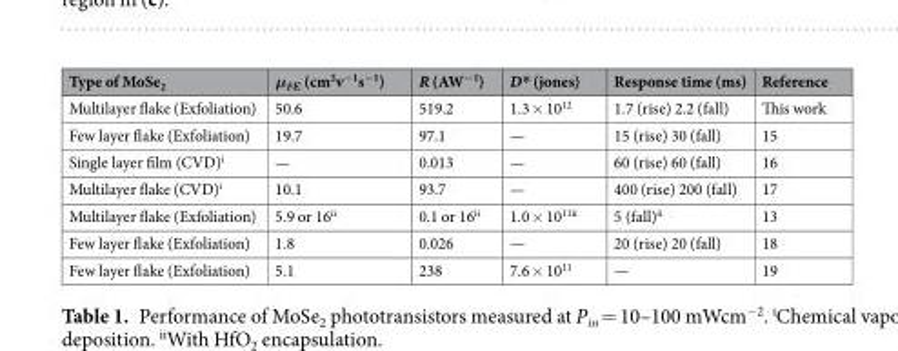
<table><thead><tr><td>Type of MoSe<sub>2</sub></td><td>μ<sub>FΕ</sub> (cm<sup>2</sup>v<sup>−1</sup>s<sup>−1</sup>)</td><td>R (AW<sup>−1</sup>)</td><td>D* (jones)</td><td>Response time (ms)</td><td>Reference</td></tr></thead><tbody><tr><td>Multilayer flake (Exfoliation)</td><td>50.6</td><td>519.2</td><td>1.3 × 10<sup>12</sup></td><td>1.7 (rise) 2.2 (fall)</td><td>This work</td></tr><tr><td>Few layer flake (Exfoliation)</td><td>19.7</td><td>97.1</td><td>—</td><td>15 (rise) 30 (fall)</td><td>15</td></tr><tr><td>Single layer film (CVD)<sup>i</sup></td><td>—</td><td>0.013</td><td>—</td><td>60 (rise) 60 (fall)</td><td>16</td></tr><tr><td>Multilayer flake (CVD)<sup>i</sup></td><td>10.1</td><td>93.7</td><td>—</td><td>400 (rise) 200 (fall)</td><td>17</td></tr><tr><td>Multilayer flake (Exfoliation)</td><td>5.9 or 16<sup>ii</sup></td><td>0.1 or 16<sup>ii</sup></td><td>1.0 × 10<sup>11ii</sup></td><td>5 (fall)<sup>ii</sup></td><td>13</td></tr><tr><td>Few layer flake (Exfoliation)</td><td>1.8</td><td>0.026</td><td>—</td><td>20 (rise) 20 (fall)</td><td>18</td></tr><tr><td>Few layer flake (Exfoliation)</td><td>5.1</td><td>238</td><td>7.6 × 10<sup>11</sup></td><td>—</td><td>19</td></tr></tbody></table>